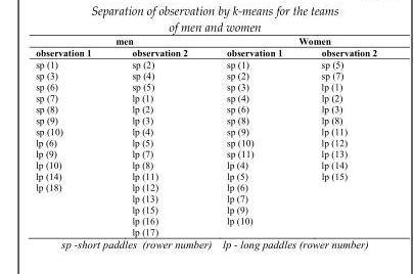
<table><thead><tr><td colspan="2">men</td><td colspan="2">Women</td></tr><tr><td>observation 1</td><td>observation 2</td><td>observation 1</td><td>observation 2</td></tr></thead><tbody><tr><td>sp (1)</td><td>sp (2)</td><td>sp (1)</td><td>sp (5)</td></tr><tr><td>sp (3)</td><td>sp (4)</td><td>sp (2)</td><td>sp (7)</td></tr><tr><td>sp (6)</td><td>sp (5)</td><td>sp (3)</td><td>lp (1)</td></tr><tr><td>sp (7)</td><td>lp (1)</td><td>sp (4)</td><td>lp (2)</td></tr><tr><td>sp (8)</td><td>lp (2)</td><td>sp (6)</td><td>lp (3)</td></tr><tr><td>sp (9)</td><td>lp (3)</td><td>sp (8)</td><td>lp (8)</td></tr><tr><td>sp (10)</td><td>lp (4)</td><td>sp (9)</td><td>lp (11)</td></tr><tr><td>lp (6)</td><td>lp (5)</td><td>sp (10)</td><td>lp (12)</td></tr><tr><td>lp (9)</td><td>lp (7)</td><td>sp (11)</td><td>lp (13)</td></tr><tr><td>lp (10)</td><td>lp (8)</td><td>lp (4)</td><td>lp (14)</td></tr><tr><td>lp (14)</td><td>lp (11)</td><td>lp (5)</td><td>lp (15)</td></tr><tr><td rowspan="5">lp (18)</td><td>lp (12)</td><td>lp (6)</td><td></td></tr><tr><td>lp (13)</td><td>lp (7)</td><td></td></tr><tr><td>lp (15)</td><td>lp (9)</td><td></td></tr><tr><td>lp (16)</td><td>lp (10)</td><td></td></tr><tr><td>lp (17)</td><td></td><td></td></tr></tbody></table>